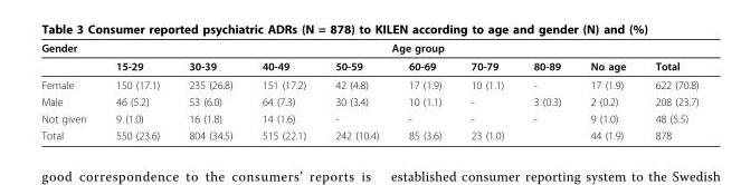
<table><thead><tr><td rowspan="2">Gender</td><td colspan="9">Age group</td></tr><tr><td>15-29</td><td>30-39</td><td>40-49</td><td>50-59</td><td>60-69</td><td>70-79</td><td>80-89</td><td>No age</td><td>Total</td></tr></thead><tbody><tr><td>Female</td><td>150 (17.1)</td><td>235 (26.8)</td><td>151 (17.2)</td><td>42 (4.8)</td><td>17 (1.9)</td><td>10 (1.1)</td><td>-</td><td>17 (1.9)</td><td>622 (70.8)</td></tr><tr><td>Male</td><td>46 (5.2)</td><td>53 (6.0)</td><td>64 (7.3)</td><td>30 (3.4)</td><td>10 (1.1)</td><td>-</td><td>3 (0.3)</td><td>2 (0.2)</td><td>208 (23.7)</td></tr><tr><td>Not given</td><td>9 (1.0)</td><td>16 (1.8)</td><td>14 (1.6)</td><td>-</td><td>-</td><td>-</td><td>-</td><td>9 (1.0)</td><td>48 (5.5)</td></tr><tr><td>Total</td><td>550 (23.6)</td><td>804 (34.5)</td><td>515 (22.1)</td><td>242 (10.4)</td><td>85 (3.6)</td><td>23 (1.0)</td><td></td><td>44 (1.9)</td><td>878</td></tr></tbody></table>